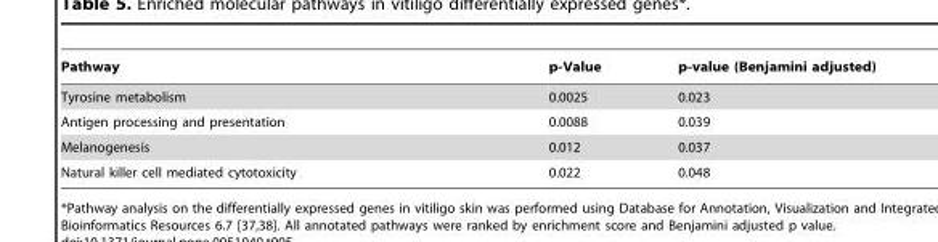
<table><thead><tr><td>Pathway</td><td>p-Value</td><td>p-value (Benjamini adjusted)</td></tr></thead><tbody><tr><td>Tyrosine metabolism</td><td>0.0025</td><td>0.023</td></tr><tr><td>Antigen processing and presentation</td><td>0.0088</td><td>0.039</td></tr><tr><td>Melanogenesis</td><td>0.012</td><td>0.037</td></tr><tr><td>Natural killer cell mediated cytotoxicity</td><td>0.022</td><td>0.048</td></tr></tbody></table>